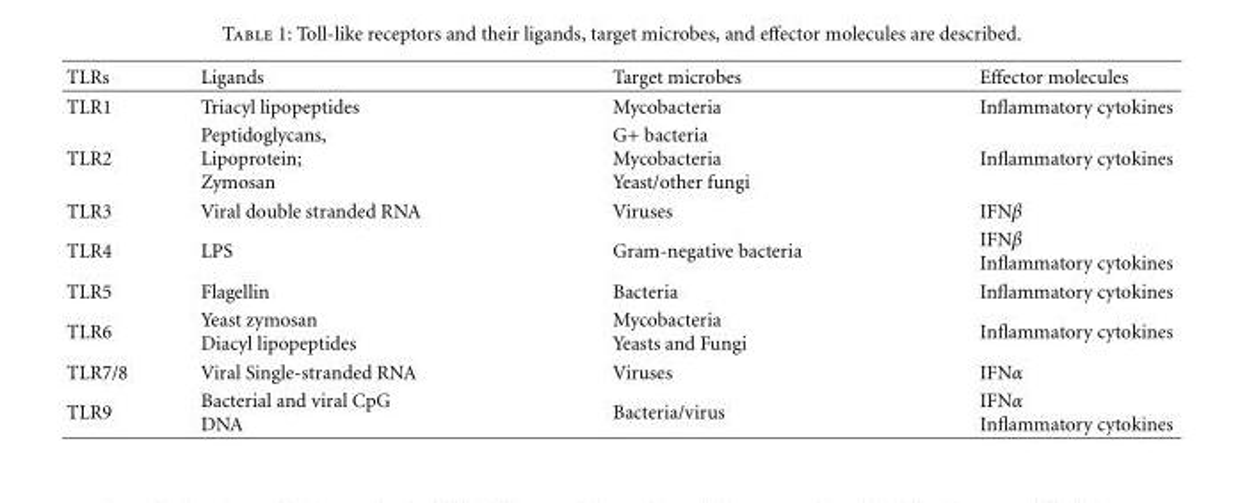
<table><thead><tr><td>TLRs</td><td>Ligands</td><td>Target microbes</td><td>Effector molecules</td></tr></thead><tbody><tr><td>TLR1</td><td>Triacyl lipopeptides</td><td>Mycobacteria</td><td>Inflammatory cytokines</td></tr><tr><td>TLR2</td><td>Peptidoglycans, Lipoprotein; Zymosan</td><td>G+ bacteria Mycobacteria Yeast/other fungi</td><td>Inflammatory cytokines</td></tr><tr><td>TLR3</td><td>Viral double stranded RNA</td><td>Viruses</td><td>IFNβ</td></tr><tr><td>TLR4</td><td>LPS</td><td>Gram-negative bacteria</td><td>IFNβ Inflammatory cytokines</td></tr><tr><td>TLR5</td><td>Flagellin</td><td>Bacteria</td><td>Inflammatory cytokines</td></tr><tr><td>TLR6</td><td>Yeast zymosan Diacyl lipopeptides</td><td>Mycobacteria Yeasts and Fungi</td><td>Inflammatory cytokines</td></tr><tr><td>TLR7/8</td><td>Viral Single-stranded RNA</td><td>Viruses</td><td>IFNα</td></tr><tr><td>TLR9</td><td>Bacterial and viral CpG DNA</td><td>Bacteria/virus</td><td>IFNα Inflammatory cytokines</td></tr></tbody></table>